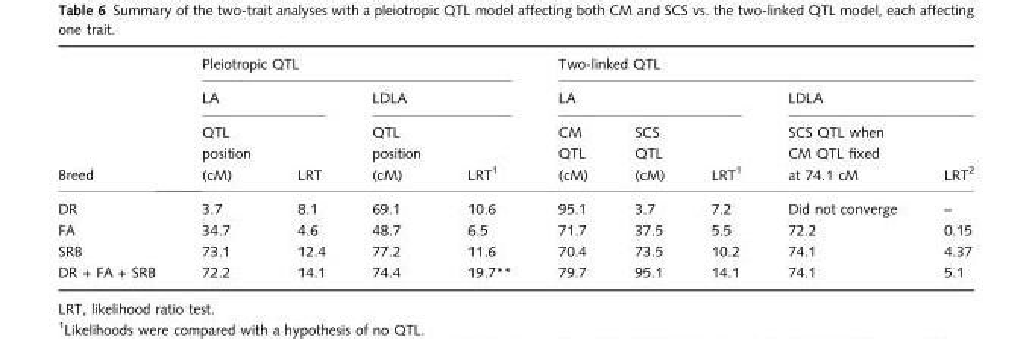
<table><thead><tr><td rowspan="3">Breed</td><td colspan="4">Pleiotropic QTL</td><td colspan="5">Two-linked QTL</td></tr><tr><td colspan="2">LA</td><td colspan="2">LDLA</td><td colspan="3">LA</td><td colspan="2">LDLA</td></tr><tr><td>QTL position (cM)</td><td>LRT</td><td>QTL position (cM)</td><td>LRT1</td><td>CM QTL (cM)</td><td>SCS QTL (cM)</td><td>LRT1</td><td>SCS QTL when CM QTL fixed at 74.1 cM</td><td>LRT2</td></tr></thead><tbody><tr><td>DR</td><td>3.7</td><td>8.1</td><td>69.1</td><td>10.6</td><td>95.1</td><td>3.7</td><td>7.2</td><td>Did not converge</td><td>–</td></tr><tr><td>FA</td><td>34.7</td><td>4.6</td><td>48.7</td><td>6.5</td><td>71.7</td><td>37.5</td><td>5.5</td><td>72.2</td><td>0.15</td></tr><tr><td>SRB</td><td>73.1</td><td>12.4</td><td>77.2</td><td>11.6</td><td>70.4</td><td>73.5</td><td>10.2</td><td>74.1</td><td>4.37</td></tr><tr><td>DR + FA + SRB</td><td>72.2</td><td>14.1</td><td>74.4</td><td>19.7**</td><td>79.7</td><td>95.1</td><td>14.1</td><td>74.1</td><td>5.1</td></tr></tbody></table>